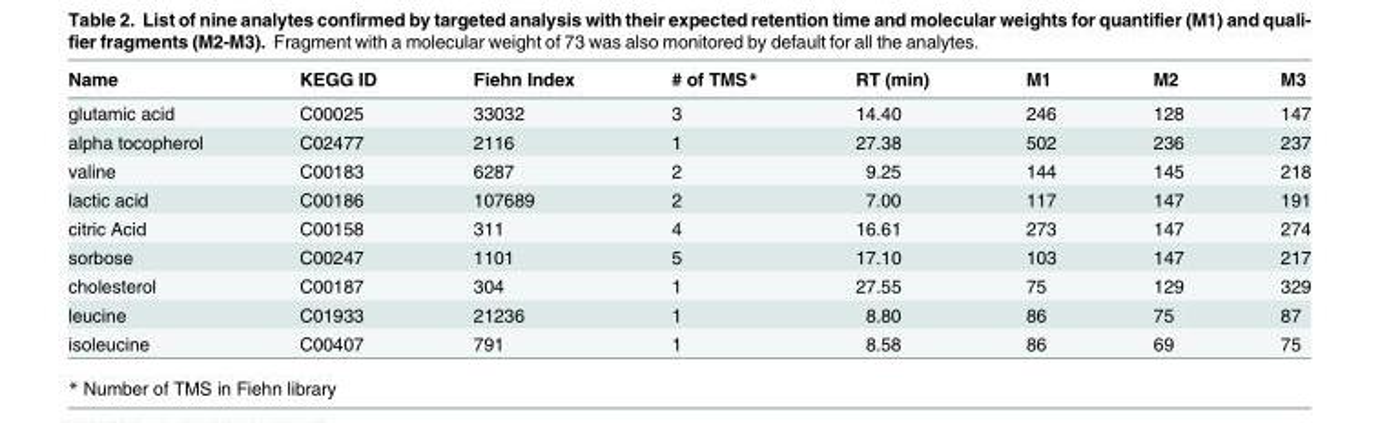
<table><thead><tr><td>Name</td><td>KEGG ID</td><td>Fiehn Index</td><td># of TMS*</td><td>RT (min)</td><td>M1</td><td>M2</td><td>M3</td></tr></thead><tbody><tr><td>glutamic acid</td><td>C00025</td><td>33032</td><td>3</td><td>14.40</td><td>246</td><td>128</td><td>147</td></tr><tr><td>alpha tocopherol</td><td>C02477</td><td>2116</td><td>1</td><td>27.38</td><td>502</td><td>236</td><td>237</td></tr><tr><td>valine</td><td>C00183</td><td>6287</td><td>2</td><td>9.25</td><td>144</td><td>145</td><td>218</td></tr><tr><td>lactic acid</td><td>C00186</td><td>107689</td><td>2</td><td>7.00</td><td>117</td><td>147</td><td>191</td></tr><tr><td>citric Acid</td><td>C00158</td><td>311</td><td>4</td><td>16.61</td><td>273</td><td>147</td><td>274</td></tr><tr><td>sorbose</td><td>C00247</td><td>1101</td><td>5</td><td>17.10</td><td>103</td><td>147</td><td>217</td></tr><tr><td>cholesterol</td><td>C00187</td><td>304</td><td>1</td><td>27.55</td><td>75</td><td>129</td><td>329</td></tr><tr><td>leucine</td><td>C01933</td><td>21236</td><td>1</td><td>8.80</td><td>86</td><td>75</td><td>87</td></tr><tr><td>isoleucine</td><td>C00407</td><td>791</td><td>1</td><td>8.58</td><td>86</td><td>69</td><td>75</td></tr></tbody></table>